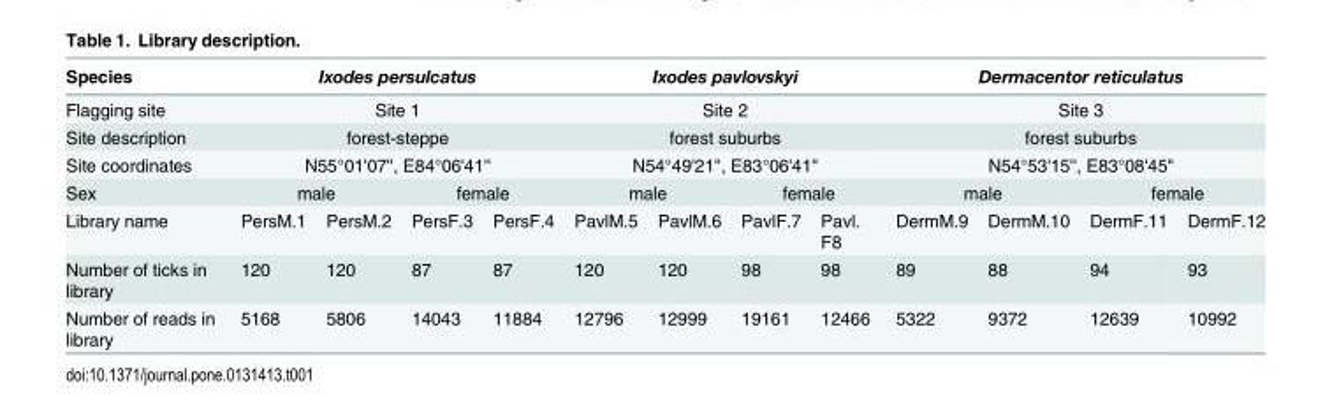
<table><thead><tr><td>Species</td><td colspan="4">Ixodes persulcatus</td><td colspan="4">Ixodes pavlovskyi</td><td colspan="4">Dermacentor reticulatus</td></tr></thead><tbody><tr><td>Flagging site</td><td colspan="4">Site 1</td><td colspan="4">Site 2</td><td colspan="4">Site 3</td></tr><tr><td>Site description</td><td colspan="4">forest-steppe</td><td colspan="4">forest suburbs</td><td colspan="4">forest suburbs</td></tr><tr><td>Site coordinates</td><td colspan="4">N55°01&#x27;07&#x27;&#x27;, E84°06&#x27;41&#x27;&#x27;</td><td colspan="4">N54°49&#x27;21&#x27;&#x27;, E83°06&#x27;41&#x27;&#x27;</td><td colspan="4">N54°53&#x27;15&#x27;&#x27;, E83°08&#x27;45&quot;</td></tr><tr><td>Sex</td><td colspan="2">male</td><td colspan="2">female</td><td colspan="2">male</td><td colspan="2">female</td><td colspan="2">male</td><td colspan="2">female</td></tr><tr><td>Library name</td><td>PersM.1</td><td>PersM.2</td><td>PersF.3</td><td>PersF.4</td><td>PavlM.5</td><td>PavlM.6</td><td>PavlF.7</td><td>Pavl. F8</td><td>DermM.9</td><td>DermM.10</td><td>DermF.11</td><td>DermF.12</td></tr><tr><td>Number of ticks in library</td><td>120</td><td>120</td><td>87</td><td>87</td><td>120</td><td>120</td><td>98</td><td>98</td><td>89</td><td>88</td><td>94</td><td>93</td></tr><tr><td>Number of reads in library</td><td>5168</td><td>5806</td><td>14043</td><td>11884</td><td>12796</td><td>12999</td><td>19161</td><td>12466</td><td>5322</td><td>9372</td><td>12639</td><td>10992</td></tr></tbody></table>